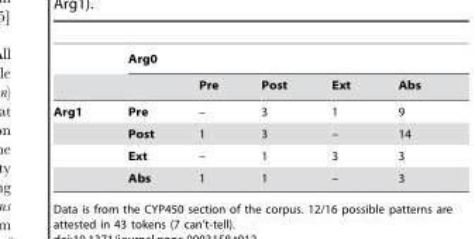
<table><thead><tr><td rowspan="2"></td><td colspan="5">Arg0</td></tr><tr><td></td><td>Pre</td><td>Post</td><td>Ext</td><td>Abs</td></tr></thead><tbody><tr><td rowspan="4">Arg1</td><td>Pre</td><td>–</td><td>3</td><td>1</td><td>9</td></tr><tr><td>Post</td><td>1</td><td>3</td><td>–</td><td>14</td></tr><tr><td>Ext</td><td>–</td><td>1</td><td>3</td><td>3</td></tr><tr><td>Abs</td><td>1</td><td>1</td><td>–</td><td>3</td></tr></tbody></table>